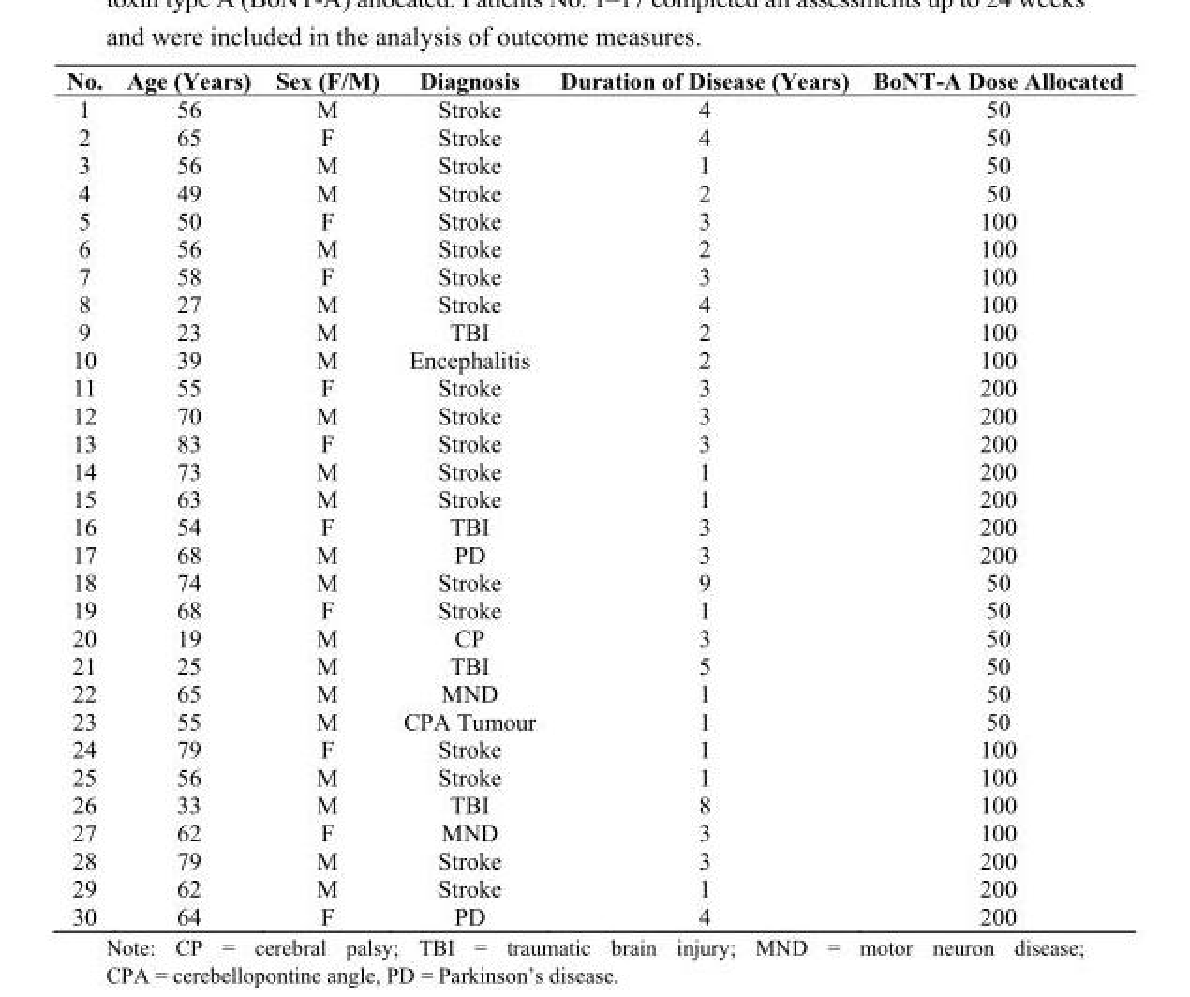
<table><thead><tr><td>No.</td><td>Age (Years)</td><td>Sex (F/M)</td><td>Diagnosis</td><td>Duration of Disease (Years)</td><td>BoNT-A Dose Allocated</td></tr></thead><tbody><tr><td>1</td><td>56</td><td>M</td><td>Stroke</td><td>4</td><td>50</td></tr><tr><td>2</td><td>65</td><td>F</td><td>Stroke</td><td>4</td><td>50</td></tr><tr><td>3</td><td>56</td><td>M</td><td>Stroke</td><td>1</td><td>50</td></tr><tr><td>4</td><td>49</td><td>M</td><td>Stroke</td><td>2</td><td>50</td></tr><tr><td>5</td><td>50</td><td>F</td><td>Stroke</td><td>3</td><td>100</td></tr><tr><td>6</td><td>56</td><td>M</td><td>Stroke</td><td>2</td><td>100</td></tr><tr><td>7</td><td>58</td><td>F</td><td>Stroke</td><td>3</td><td>100</td></tr><tr><td>8</td><td>27</td><td>M</td><td>Stroke</td><td>4</td><td>100</td></tr><tr><td>9</td><td>23</td><td>M</td><td>TBI</td><td>2</td><td>100</td></tr><tr><td>10</td><td>39</td><td>M</td><td>Encephalitis</td><td>2</td><td>100</td></tr><tr><td>11</td><td>55</td><td>F</td><td>Stroke</td><td>3</td><td>200</td></tr><tr><td>12</td><td>70</td><td>M</td><td>Stroke</td><td>3</td><td>200</td></tr><tr><td>13</td><td>83</td><td>F</td><td>Stroke</td><td>3</td><td>200</td></tr><tr><td>14</td><td>73</td><td>M</td><td>Stroke</td><td>1</td><td>200</td></tr><tr><td>15</td><td>63</td><td>M</td><td>Stroke</td><td>1</td><td>200</td></tr><tr><td>16</td><td>54</td><td>F</td><td>TBI</td><td>3</td><td>200</td></tr><tr><td>17</td><td>68</td><td>M</td><td>PD</td><td>3</td><td>200</td></tr><tr><td>18</td><td>74</td><td>M</td><td>Stroke</td><td>9</td><td>50</td></tr><tr><td>19</td><td>68</td><td>F</td><td>Stroke</td><td>1</td><td>50</td></tr><tr><td>20</td><td>19</td><td>M</td><td>CP</td><td>3</td><td>50</td></tr><tr><td>21</td><td>25</td><td>M</td><td>TBI</td><td>5</td><td>50</td></tr><tr><td>22</td><td>65</td><td>M</td><td>MND</td><td>1</td><td>50</td></tr><tr><td>23</td><td>55</td><td>M</td><td>CPA Tumour</td><td>1</td><td>50</td></tr><tr><td>24</td><td>79</td><td>F</td><td>Stroke</td><td>1</td><td>100</td></tr><tr><td>25</td><td>56</td><td>M</td><td>Stroke</td><td>1</td><td>100</td></tr><tr><td>26</td><td>33</td><td>M</td><td>TBI</td><td>8</td><td>100</td></tr><tr><td>27</td><td>62</td><td>F</td><td>MND</td><td>3</td><td>100</td></tr><tr><td>28</td><td>79</td><td>M</td><td>Stroke</td><td>3</td><td>200</td></tr><tr><td>29</td><td>62</td><td>M</td><td>Stroke</td><td>1</td><td>200</td></tr><tr><td>30</td><td>64</td><td>F</td><td>PD</td><td>4</td><td>200</td></tr></tbody></table>